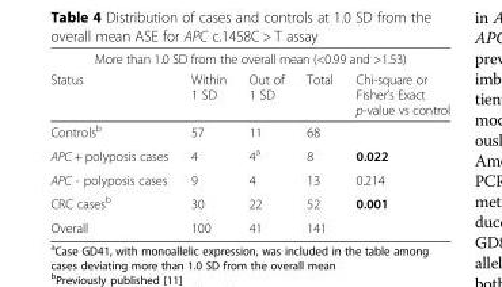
<table><thead><tr><td colspan="5">More than 1.0 SD from the overall mean (&lt;0.99 and &gt;1.53)</td></tr><tr><td>Status</td><td>Within 1 SD</td><td>Out of 1 SD</td><td>Total</td><td>Chi-square or Fisher’s Exact p-value vs control</td></tr></thead><tbody><tr><td>Controls<sup>b</sup></td><td>57</td><td>11</td><td>68</td><td></td></tr><tr><td>APC + polyposis cases</td><td>4</td><td>4<sup>a</sup></td><td>8</td><td>0.022</td></tr><tr><td>APC - polyposis cases</td><td>9</td><td>4</td><td>13</td><td>0.214</td></tr><tr><td>CRC cases<sup>b</sup></td><td>30</td><td>22</td><td>52</td><td>0.001</td></tr><tr><td>Overall</td><td>100</td><td>41</td><td>141</td><td></td></tr></tbody></table>